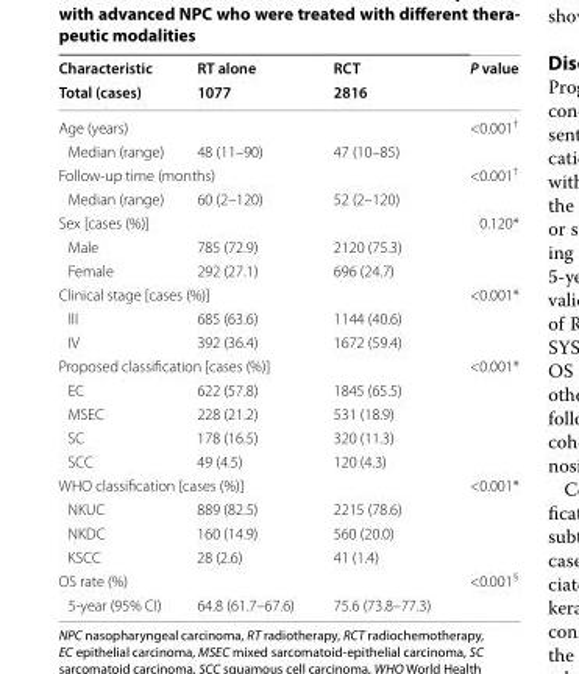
<table><thead><tr><td rowspan="2">Characteristic Total (cases)</td><td rowspan="2">RT alone 1077</td><td rowspan="2">RCT 2816</td><td rowspan="2">P value</td></tr><tr></tr></thead><tbody><tr><td>Age (years)</td><td></td><td></td><td>&lt;0.001<sup>†</sup></td></tr><tr><td>Median (range)</td><td>48 (11–90)</td><td>47 (10–85)</td><td></td></tr><tr><td colspan="2">Follow‑up time (months)</td><td></td><td>&lt;0.001<sup>†</sup></td></tr><tr><td>Median (range)</td><td>60 (2–120)</td><td>52 (2–120)</td><td></td></tr><tr><td>Sex [cases (%)]</td><td></td><td></td><td>0.120*</td></tr><tr><td>Male</td><td>785 (72.9)</td><td>2120 (75.3)</td><td></td></tr><tr><td>Female</td><td>292 (27.1)</td><td>696 (24.7)</td><td></td></tr><tr><td colspan="2">Clinical stage [cases (%)]</td><td></td><td>&lt;0.001*</td></tr><tr><td>III</td><td>685 (63.6)</td><td>1144 (40.6)</td><td></td></tr><tr><td>IV</td><td>392 (36.4)</td><td>1672 (59.4)</td><td></td></tr><tr><td colspan="2">Proposed classification [cases (%)]</td><td></td><td>&lt;0.001*</td></tr><tr><td>EC</td><td>622 (57.8)</td><td>1845 (65.5)</td><td></td></tr><tr><td>MSEC</td><td>228 (21.2)</td><td>531 (18.9)</td><td></td></tr><tr><td>SC</td><td>178 (16.5)</td><td>320 (11.3)</td><td></td></tr><tr><td>SCC</td><td>49 (4.5)</td><td>120 (4.3)</td><td></td></tr><tr><td colspan="2">WHO classification [cases (%)]</td><td></td><td>&lt;0.001*</td></tr><tr><td>NKUC</td><td>889 (82.5)</td><td>2215 (78.6)</td><td></td></tr><tr><td>NKDC</td><td>160 (14.9)</td><td>560 (20.0)</td><td></td></tr><tr><td>KSCC</td><td>28 (2.6)</td><td>41 (1.4)</td><td></td></tr><tr><td>OS rate (%)</td><td></td><td></td><td>&lt;0.001<sup>§</sup></td></tr><tr><td>5‑year (95% CI)</td><td>64.8 (61.7–67.6)</td><td>75.6 (73.8–77.3)</td><td></td></tr></tbody></table>